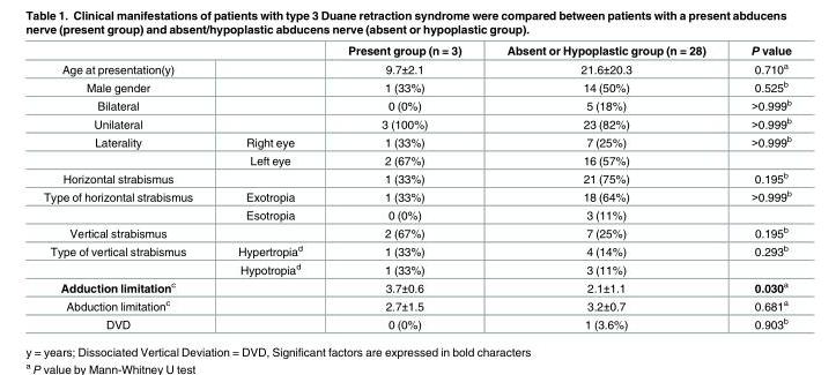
<table><thead><tr><td></td><td></td><td>Present group (n = 3)</td><td>Absent or Hypoplastic group (n = 28)</td><td>P value</td></tr></thead><tbody><tr><td>Age at presentation(y)</td><td></td><td>9.7±2.1</td><td>21.6±20.3</td><td>0.710<sup>a</sup></td></tr><tr><td>Male gender</td><td></td><td>1 (33%)</td><td>14 (50%)</td><td>0.525<sup>b</sup></td></tr><tr><td>Bilateral</td><td></td><td>0 (0%)</td><td>5 (18%)</td><td>&gt;0.999<sup>b</sup></td></tr><tr><td>Unilateral</td><td></td><td>3 (100%)</td><td>23 (82%)</td><td>&gt;0.999<sup>b</sup></td></tr><tr><td rowspan="2">Laterality</td><td>Right eye</td><td>1 (33%)</td><td>7 (25%)</td><td>&gt;0.999<sup>b</sup></td></tr><tr><td>Left eye</td><td>2 (67%)</td><td>16 (57%)</td><td></td></tr><tr><td>Horizontal strabismus</td><td></td><td>1 (33%)</td><td>21 (75%)</td><td>0.195<sup>b</sup></td></tr><tr><td rowspan="2">Type of horizontal strabismus</td><td>Exotropia</td><td>1 (33%)</td><td>18 (64%)</td><td>&gt;0.999<sup>b</sup></td></tr><tr><td>Esotropia</td><td>0 (0%)</td><td>3 (11%)</td><td></td></tr><tr><td>Vertical strabismus</td><td></td><td>2 (67%)</td><td>7 (25%)</td><td>0.195<sup>b</sup></td></tr><tr><td rowspan="2">Type of vertical strabismus</td><td>Hypertropia<sup>d</sup></td><td>1 (33%)</td><td>4 (14%)</td><td>0.293<sup>b</sup></td></tr><tr><td>Hypotropia<sup>d</sup></td><td>1 (33%)</td><td>3 (11%)</td><td></td></tr><tr><td>Adduction limitation<sup>c</sup></td><td></td><td>3.7±0.6</td><td>2.1±1.1</td><td>0.030<sup>a</sup></td></tr><tr><td>Abduction limitation<sup>c</sup></td><td></td><td>2.7±1.5</td><td>3.2±0.7</td><td>0.681<sup>a</sup></td></tr><tr><td>DVD</td><td></td><td>0 (0%)</td><td>1 (3.6%)</td><td>0.903<sup>b</sup></td></tr></tbody></table>